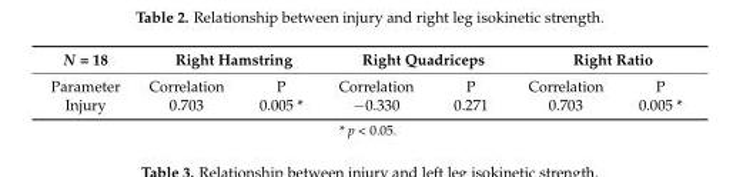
<table><thead><tr><td rowspan="2">N = 18 Parameter</td><td colspan="2">Right Hamstring</td><td colspan="2">Right Quadriceps</td><td colspan="2">Right Ratio</td></tr><tr><td>Correlation</td><td>P</td><td>Correlation</td><td>P</td><td>Correlation</td><td>P</td></tr></thead><tbody><tr><td>Injury</td><td>0.703</td><td>0.005 *</td><td>−0.330</td><td>0.271</td><td>0.703</td><td>0.005 *</td></tr></tbody></table>